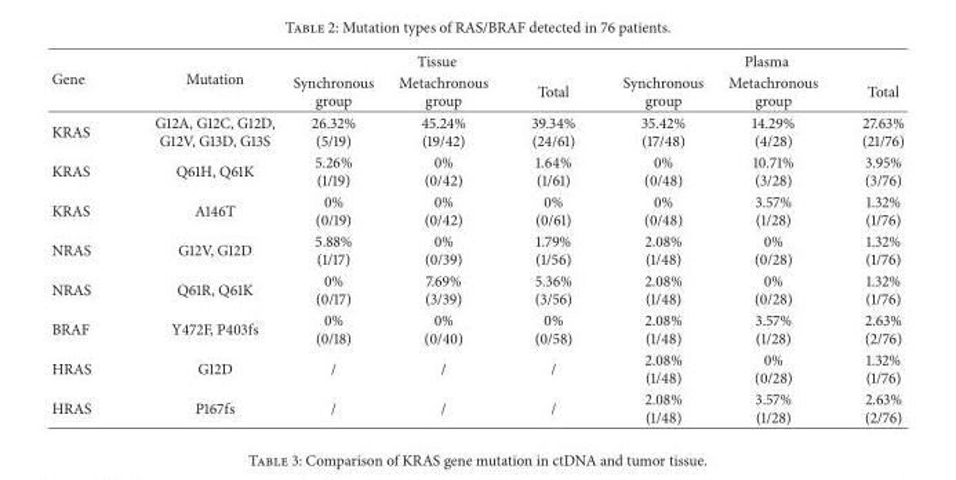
<table><thead><tr><td rowspan="2">Gene</td><td rowspan="2">Mutation</td><td colspan="3">Tissue</td><td colspan="3">Plasma</td></tr><tr><td>Synchronous group</td><td>Metachronous group</td><td>Total</td><td>Synchronous group</td><td>Metachronous group</td><td>Total</td></tr></thead><tbody><tr><td>KRAS</td><td>G12A, G12C, G12D, G12V, G13D, G13S</td><td>26.32% (5/19)</td><td>45.24% (19/42)</td><td>39.34% (24/61)</td><td>35.42% (17/48)</td><td>14.29% (4/28)</td><td>27.63% (21/76)</td></tr><tr><td>KRAS</td><td>Q61H, Q61K</td><td>5.26% (1/19)</td><td>0% (0/42)</td><td>1.64% (1/61)</td><td>0% (0/48)</td><td>10.71% (3/28)</td><td>3.95% (3/76)</td></tr><tr><td>KRAS</td><td>A146T</td><td>0% (0/19)</td><td>0% (0/42)</td><td>0% (0/61)</td><td>0% (0/48)</td><td>3.57% (1/28)</td><td>1.32% (1/76)</td></tr><tr><td>NRAS</td><td>G12V, G12D</td><td>5.88% (1/17)</td><td>0% (0/39)</td><td>1.79% (1/56)</td><td>2.08% (1/48)</td><td>0% (0/28)</td><td>1.32% (1/76)</td></tr><tr><td>NRAS</td><td>Q61R, Q61K</td><td>0% (0/17)</td><td>7.69% (3/39)</td><td>5.36% (3/56)</td><td>2.08% (1/48)</td><td>0% (0/28)</td><td>1.32% (1/76)</td></tr><tr><td>BRAF</td><td>Y472F, P403fs</td><td>0% (0/18)</td><td>0% (0/40)</td><td>0% (0/58)</td><td>2.08% (1/48)</td><td>3.57% (1/28)</td><td>2.63% (2/76)</td></tr><tr><td>HRAS</td><td>G12D</td><td>/</td><td>/</td><td>/</td><td>2.08% (1/48)</td><td>0% (0/28)</td><td>1.32% (1/76)</td></tr><tr><td>HRAS</td><td>P167fs</td><td>/</td><td>/</td><td>/</td><td>2.08% (1/48)</td><td>3.57% (1/28)</td><td>2.63% (2/76)</td></tr></tbody></table>